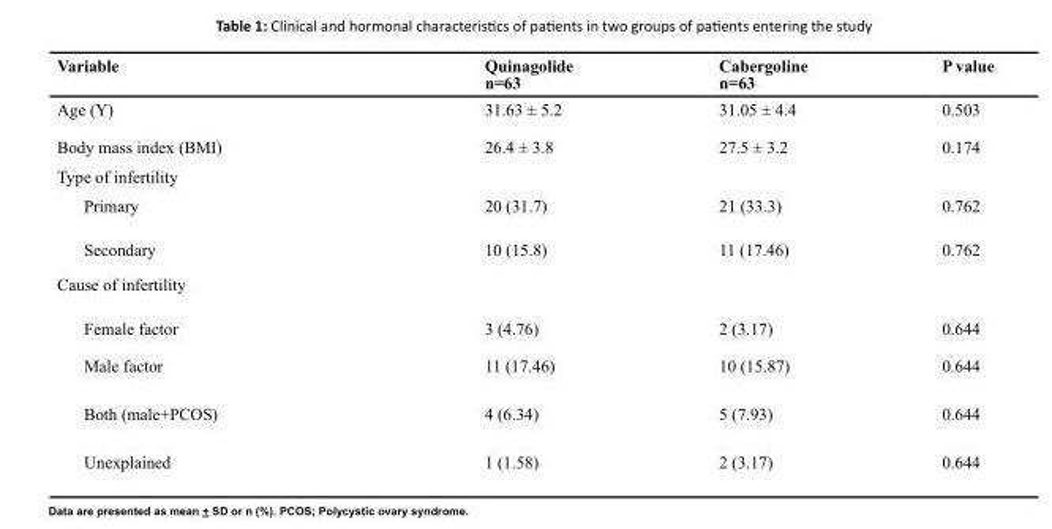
<table><thead><tr><td>Variable</td><td>Quinagolide n=63</td><td>Cabergoline n=63</td><td>P value</td></tr></thead><tbody><tr><td>Age (Y)</td><td>31.63 ± 5.2</td><td>31.05 ± 4.4</td><td>0.503</td></tr><tr><td>Body mass index (BMI)</td><td>26.4 ± 3.8</td><td>27.5 ± 3.2</td><td>0.174</td></tr><tr><td colspan="4">Type of infertility</td></tr><tr><td>Primary</td><td>20 (31.7)</td><td>21 (33.3)</td><td>0.762</td></tr><tr><td>Secondary</td><td>10 (15.8)</td><td>11 (17.46)</td><td>0.762</td></tr><tr><td colspan="4">Cause of infertility</td></tr><tr><td>Female factor</td><td>3 (4.76)</td><td>2 (3.17)</td><td>0.644</td></tr><tr><td>Male factor</td><td>11 (17.46)</td><td>10 (15.87)</td><td>0.644</td></tr><tr><td>Both (male+PCOS)</td><td>4 (6.34)</td><td>5 (7.93)</td><td>0.644</td></tr><tr><td>Unexplained</td><td>1 (1.58)</td><td>2 (3.17)</td><td>0.644</td></tr></tbody></table>